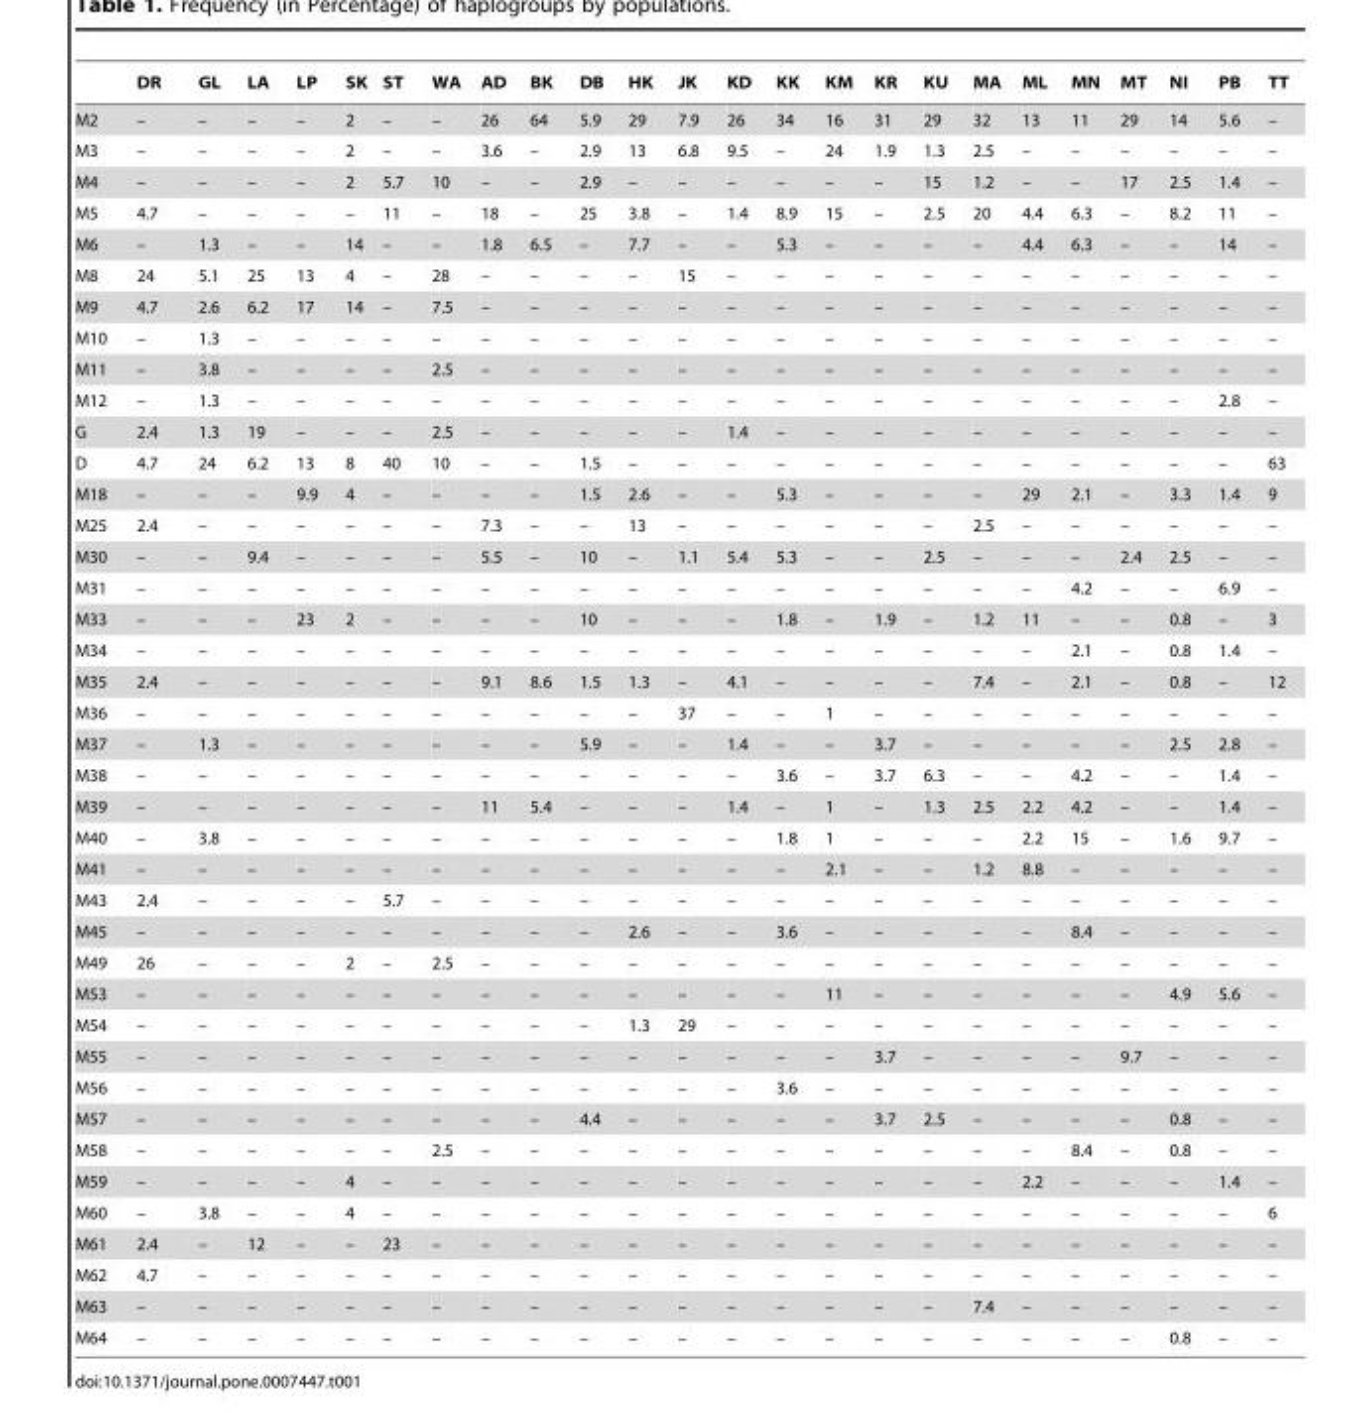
<table><thead><tr><td></td><td>DR</td><td>GL</td><td>LA</td><td>LP</td><td>SK</td><td>ST</td><td>WA</td><td>AD</td><td>BK</td><td>DB</td><td>HK</td><td>JK</td><td>KD</td><td>KK</td><td>KM</td><td>KR</td><td>KU</td><td>MA</td><td>ML</td><td>MN</td><td>MT</td><td>NI</td><td>PB</td><td>TT</td></tr></thead><tbody><tr><td>M2</td><td>–</td><td>–</td><td>–</td><td>–</td><td>2</td><td>–</td><td>–</td><td>26</td><td>64</td><td>5.9</td><td>29</td><td>7.9</td><td>26</td><td>34</td><td>16</td><td>31</td><td>29</td><td>32</td><td>13</td><td>11</td><td>29</td><td>14</td><td>5.6</td><td>–</td></tr><tr><td>M3</td><td>–</td><td>–</td><td>–</td><td>–</td><td>2</td><td>–</td><td>–</td><td>3.6</td><td>–</td><td>2.9</td><td>13</td><td>6.8</td><td>9.5</td><td>–</td><td>24</td><td>1.9</td><td>1.3</td><td>2.5</td><td>–</td><td>–</td><td>–</td><td>–</td><td>–</td><td>–</td></tr><tr><td>M4</td><td>–</td><td>–</td><td>–</td><td>–</td><td>2</td><td>5.7</td><td>10</td><td>–</td><td>–</td><td>2.9</td><td>–</td><td>–</td><td>–</td><td>–</td><td>–</td><td>–</td><td>15</td><td>1.2</td><td>–</td><td>–</td><td>17</td><td>2.5</td><td>1.4</td><td>–</td></tr><tr><td>M5</td><td>4.7</td><td>–</td><td>–</td><td>–</td><td>–</td><td>11</td><td>–</td><td>18</td><td>–</td><td>25</td><td>3.8</td><td>–</td><td>1.4</td><td>8.9</td><td>15</td><td>–</td><td>2.5</td><td>20</td><td>4.4</td><td>6.3</td><td>–</td><td>8.2</td><td>11</td><td>–</td></tr><tr><td>M6</td><td>–</td><td>1.3</td><td>–</td><td>–</td><td>14</td><td>–</td><td>–</td><td>1.8</td><td>6.5</td><td>–</td><td>7.7</td><td>–</td><td>–</td><td>5.3</td><td>–</td><td>–</td><td>–</td><td>–</td><td>4.4</td><td>6.3</td><td>–</td><td>–</td><td>14</td><td>–</td></tr><tr><td>M8</td><td>24</td><td>5.1</td><td>25</td><td>13</td><td>4</td><td>–</td><td>28</td><td>–</td><td>–</td><td>–</td><td>–</td><td>15</td><td>–</td><td>–</td><td>–</td><td>–</td><td>–</td><td>–</td><td>–</td><td>–</td><td>–</td><td>–</td><td>–</td><td>–</td></tr><tr><td>M9</td><td>4.7</td><td>2.6</td><td>6.2</td><td>17</td><td>14</td><td>–</td><td>7.5</td><td>–</td><td>–</td><td>–</td><td>–</td><td>–</td><td>–</td><td>–</td><td>–</td><td>–</td><td>–</td><td>–</td><td>–</td><td>–</td><td>–</td><td>–</td><td>–</td><td>–</td></tr><tr><td>M10</td><td>–</td><td>1.3</td><td>–</td><td>–</td><td>–</td><td>–</td><td>–</td><td>–</td><td>–</td><td>–</td><td>–</td><td>–</td><td>–</td><td>–</td><td>–</td><td>–</td><td>–</td><td>–</td><td>–</td><td>–</td><td>–</td><td>–</td><td>–</td><td>–</td></tr><tr><td>M11</td><td>–</td><td>3.8</td><td>–</td><td>–</td><td>–</td><td>–</td><td>2.5</td><td>–</td><td>–</td><td>–</td><td>–</td><td>–</td><td>–</td><td>–</td><td>–</td><td>–</td><td>–</td><td>–</td><td>–</td><td>–</td><td>–</td><td>–</td><td>–</td><td>–</td></tr><tr><td>M12</td><td>–</td><td>1.3</td><td>–</td><td>–</td><td>–</td><td>–</td><td>–</td><td>–</td><td>–</td><td>–</td><td>–</td><td>–</td><td>–</td><td>–</td><td>–</td><td>–</td><td>–</td><td>–</td><td>–</td><td>–</td><td>–</td><td>–</td><td>2.8</td><td>–</td></tr><tr><td>G</td><td>2.4</td><td>1.3</td><td>19</td><td>–</td><td>–</td><td>–</td><td>2.5</td><td>–</td><td>–</td><td>–</td><td>–</td><td>–</td><td>1.4</td><td>–</td><td>–</td><td>–</td><td>–</td><td>–</td><td>–</td><td>–</td><td>–</td><td>–</td><td>–</td><td>–</td></tr><tr><td>D</td><td>4.7</td><td>24</td><td>6.2</td><td>13</td><td>8</td><td>40</td><td>10</td><td>–</td><td>–</td><td>1.5</td><td>–</td><td>–</td><td>–</td><td>–</td><td>–</td><td>–</td><td>–</td><td>–</td><td>–</td><td>–</td><td>–</td><td>–</td><td>–</td><td>63</td></tr><tr><td>M18</td><td>–</td><td>–</td><td>–</td><td>9.9</td><td>4</td><td>–</td><td>–</td><td>–</td><td>–</td><td>1.5</td><td>2.6</td><td>–</td><td>–</td><td>5.3</td><td>–</td><td>–</td><td>–</td><td>–</td><td>29</td><td>2.1</td><td>–</td><td>3.3</td><td>1.4</td><td>9</td></tr><tr><td>M25</td><td>2.4</td><td>–</td><td>–</td><td>–</td><td>–</td><td>–</td><td>–</td><td>7.3</td><td>–</td><td>–</td><td>13</td><td>–</td><td>–</td><td>–</td><td>–</td><td>–</td><td>–</td><td>2.5</td><td>–</td><td>–</td><td>–</td><td>–</td><td>–</td><td>–</td></tr><tr><td>M30</td><td>–</td><td>–</td><td>9.4</td><td>–</td><td>–</td><td>–</td><td>–</td><td>5.5</td><td>–</td><td>10</td><td>–</td><td>1.1</td><td>5.4</td><td>5.3</td><td>–</td><td>–</td><td>2.5</td><td>–</td><td>–</td><td>–</td><td>2.4</td><td>2.5</td><td>–</td><td>–</td></tr><tr><td>M31</td><td>–</td><td>–</td><td>–</td><td>–</td><td>–</td><td>–</td><td>–</td><td>–</td><td>–</td><td>–</td><td>–</td><td>–</td><td>–</td><td>–</td><td>–</td><td>–</td><td>–</td><td>–</td><td>–</td><td>4.2</td><td>–</td><td>–</td><td>6.9</td><td>–</td></tr><tr><td>M33</td><td>–</td><td>–</td><td>–</td><td>23</td><td>2</td><td>–</td><td>–</td><td>–</td><td>–</td><td>10</td><td>–</td><td>–</td><td>–</td><td>1.8</td><td>–</td><td>1.9</td><td>–</td><td>1.2</td><td>11</td><td>–</td><td>–</td><td>0.8</td><td>–</td><td>3</td></tr><tr><td>M34</td><td>–</td><td>–</td><td>–</td><td>–</td><td>–</td><td>–</td><td>–</td><td>–</td><td>–</td><td>–</td><td>–</td><td>–</td><td>–</td><td>–</td><td>–</td><td>–</td><td>–</td><td>–</td><td>–</td><td>2.1</td><td>–</td><td>0.8</td><td>1.4</td><td>–</td></tr><tr><td>M35</td><td>2.4</td><td>–</td><td>–</td><td>–</td><td>–</td><td>–</td><td>–</td><td>9.1</td><td>8.6</td><td>1.5</td><td>1.3</td><td>–</td><td>4.1</td><td>–</td><td>–</td><td>–</td><td>–</td><td>7.4</td><td>–</td><td>2.1</td><td>–</td><td>0.8</td><td>–</td><td>12</td></tr><tr><td>M36</td><td>–</td><td>–</td><td>–</td><td>–</td><td>–</td><td>–</td><td>–</td><td>–</td><td>–</td><td>–</td><td>–</td><td>37</td><td>–</td><td>–</td><td>1</td><td>–</td><td>–</td><td>–</td><td>–</td><td>–</td><td>–</td><td>–</td><td>–</td><td>–</td></tr><tr><td>M37</td><td>–</td><td>1.3</td><td>–</td><td>–</td><td>–</td><td>–</td><td>–</td><td>–</td><td>–</td><td>5.9</td><td>–</td><td>–</td><td>1.4</td><td>–</td><td>–</td><td>3.7</td><td>–</td><td>–</td><td>–</td><td>–</td><td>–</td><td>2.5</td><td>2.8</td><td>–</td></tr><tr><td>M38</td><td>–</td><td>–</td><td>–</td><td>–</td><td>–</td><td>–</td><td>–</td><td>–</td><td>–</td><td>–</td><td>–</td><td>–</td><td>–</td><td>3.6</td><td>–</td><td>3.7</td><td>6.3</td><td>–</td><td>–</td><td>4.2</td><td>–</td><td>–</td><td>1.4</td><td>–</td></tr><tr><td>M39</td><td>–</td><td>–</td><td>–</td><td>–</td><td>–</td><td>–</td><td>–</td><td>11</td><td>5.4</td><td>–</td><td>–</td><td>–</td><td>1.4</td><td>–</td><td>1</td><td>–</td><td>1.3</td><td>2.5</td><td>2.2</td><td>4.2</td><td>–</td><td>–</td><td>1.4</td><td>–</td></tr><tr><td>M40</td><td>–</td><td>3.8</td><td>–</td><td>–</td><td>–</td><td>–</td><td>–</td><td>–</td><td>–</td><td>–</td><td>–</td><td>–</td><td>–</td><td>1.8</td><td>1</td><td>–</td><td>–</td><td>–</td><td>2.2</td><td>15</td><td>–</td><td>1.6</td><td>9.7</td><td>–</td></tr><tr><td>M41</td><td>–</td><td>–</td><td>–</td><td>–</td><td>–</td><td>–</td><td>–</td><td>–</td><td>–</td><td>–</td><td>–</td><td>–</td><td>–</td><td>–</td><td>2.1</td><td>–</td><td>–</td><td>1.2</td><td>8.8</td><td>–</td><td>–</td><td>–</td><td>–</td><td>–</td></tr><tr><td>M43</td><td>2.4</td><td>–</td><td>–</td><td>–</td><td>–</td><td>5.7</td><td>–</td><td>–</td><td>–</td><td>–</td><td>–</td><td>–</td><td>–</td><td>–</td><td>–</td><td>–</td><td>–</td><td>–</td><td>–</td><td>–</td><td>–</td><td>–</td><td>–</td><td>–</td></tr><tr><td>M45</td><td>–</td><td>–</td><td>–</td><td>–</td><td>–</td><td>–</td><td>–</td><td>–</td><td>–</td><td>–</td><td>2.6</td><td>–</td><td>–</td><td>3.6</td><td>–</td><td>–</td><td>–</td><td>–</td><td>–</td><td>8.4</td><td>–</td><td>–</td><td>–</td><td>–</td></tr><tr><td>M49</td><td>26</td><td>–</td><td>–</td><td>–</td><td>2</td><td>–</td><td>2.5</td><td>–</td><td>–</td><td>–</td><td>–</td><td>–</td><td>–</td><td>–</td><td>–</td><td>–</td><td>–</td><td>–</td><td>–</td><td>–</td><td>–</td><td>–</td><td>–</td><td>–</td></tr><tr><td>M53</td><td>–</td><td>–</td><td>–</td><td>–</td><td>–</td><td>–</td><td>–</td><td>–</td><td>–</td><td>–</td><td>–</td><td>–</td><td>–</td><td>–</td><td>11</td><td>–</td><td>–</td><td>–</td><td>–</td><td>–</td><td>–</td><td>4.9</td><td>5.6</td><td>–</td></tr><tr><td>M54</td><td>–</td><td>–</td><td>–</td><td>–</td><td>–</td><td>–</td><td>–</td><td>–</td><td>–</td><td>–</td><td>1.3</td><td>29</td><td>–</td><td>–</td><td>–</td><td>–</td><td>–</td><td>–</td><td>–</td><td>–</td><td>–</td><td>–</td><td>–</td><td>–</td></tr><tr><td>M55</td><td>–</td><td>–</td><td>–</td><td>–</td><td>–</td><td>–</td><td>–</td><td>–</td><td>–</td><td>–</td><td>–</td><td>–</td><td>–</td><td>–</td><td>–</td><td>3.7</td><td>–</td><td>–</td><td>–</td><td>–</td><td>9.7</td><td>–</td><td>–</td><td>–</td></tr><tr><td>M56</td><td>–</td><td>–</td><td>–</td><td>–</td><td>–</td><td>–</td><td>–</td><td>–</td><td>–</td><td>–</td><td>–</td><td>–</td><td>–</td><td>3.6</td><td>–</td><td>–</td><td>–</td><td>–</td><td>–</td><td>–</td><td>–</td><td>–</td><td>–</td><td>–</td></tr><tr><td>M57</td><td>–</td><td>–</td><td>–</td><td>–</td><td>–</td><td>–</td><td>–</td><td>–</td><td>–</td><td>4.4</td><td>–</td><td>–</td><td>–</td><td>–</td><td>–</td><td>3.7</td><td>2.5</td><td>–</td><td>–</td><td>–</td><td>–</td><td>0.8</td><td>–</td><td>–</td></tr><tr><td>M58</td><td>–</td><td>–</td><td>–</td><td>–</td><td>–</td><td>–</td><td>2.5</td><td>–</td><td>–</td><td>–</td><td>–</td><td>–</td><td>–</td><td>–</td><td>–</td><td>–</td><td>–</td><td>–</td><td>–</td><td>8.4</td><td>–</td><td>0.8</td><td>–</td><td>–</td></tr><tr><td>M59</td><td>–</td><td>–</td><td>–</td><td>–</td><td>4</td><td>–</td><td>–</td><td>–</td><td>–</td><td>–</td><td>–</td><td>–</td><td>–</td><td>–</td><td>–</td><td>–</td><td>–</td><td>–</td><td>2.2</td><td>–</td><td>–</td><td>–</td><td>1.4</td><td>–</td></tr><tr><td>M60</td><td>–</td><td>3.8</td><td>–</td><td>–</td><td>4</td><td>–</td><td>–</td><td>–</td><td>–</td><td>–</td><td>–</td><td>–</td><td>–</td><td>–</td><td>–</td><td>–</td><td>–</td><td>–</td><td>–</td><td>–</td><td>–</td><td>–</td><td>–</td><td>6</td></tr><tr><td>M61</td><td>2.4</td><td>–</td><td>12</td><td>–</td><td>–</td><td>23</td><td>–</td><td>–</td><td>–</td><td>–</td><td>–</td><td>–</td><td>–</td><td>–</td><td>–</td><td>–</td><td>–</td><td>–</td><td>–</td><td>–</td><td>–</td><td>–</td><td>–</td><td>–</td></tr><tr><td>M62</td><td>4.7</td><td>–</td><td>–</td><td>–</td><td>–</td><td>–</td><td>–</td><td>–</td><td>–</td><td>–</td><td>–</td><td>–</td><td>–</td><td>–</td><td>–</td><td>–</td><td>–</td><td>–</td><td>–</td><td>–</td><td>–</td><td>–</td><td>–</td><td>–</td></tr><tr><td>M63</td><td>–</td><td>–</td><td>–</td><td>–</td><td>–</td><td>–</td><td>–</td><td>–</td><td>–</td><td>–</td><td>–</td><td>–</td><td>–</td><td>–</td><td>–</td><td>–</td><td>–</td><td>7.4</td><td>–</td><td>–</td><td>–</td><td>–</td><td>–</td><td>–</td></tr><tr><td>M64</td><td>–</td><td>–</td><td>–</td><td>–</td><td>–</td><td>–</td><td>–</td><td>–</td><td>–</td><td>–</td><td>–</td><td>–</td><td>–</td><td>–</td><td>–</td><td>–</td><td>–</td><td>–</td><td>–</td><td>–</td><td>–</td><td>0.8</td><td>–</td><td>–</td></tr></tbody></table>